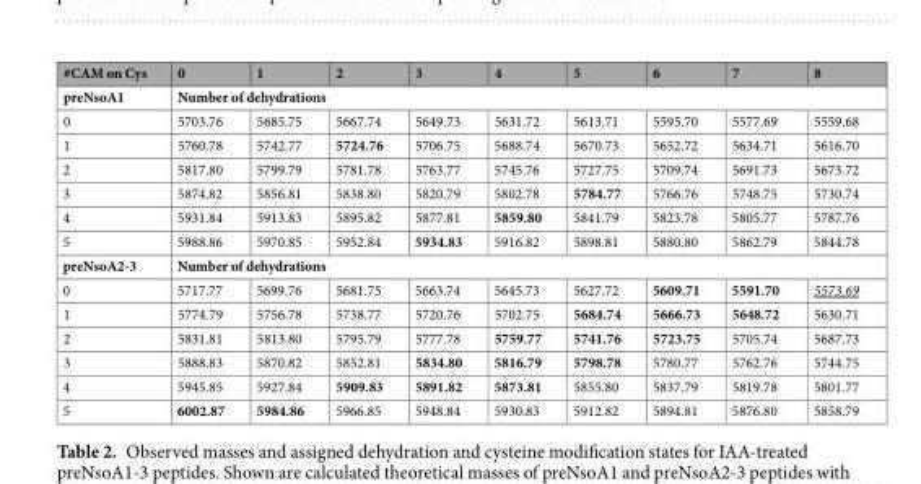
<table><thead><tr><td>#CAM on Cys</td><td>0</td><td>1</td><td>2</td><td>3</td><td>4</td><td>5</td><td>6</td><td>7</td><td>8</td></tr></thead><tbody><tr><td>preNsoA1</td><td colspan="9">Number of dehydrations</td></tr><tr><td>0</td><td>5703.76</td><td>5685.75</td><td>5667.74</td><td>5649.73</td><td>5631.72</td><td>5613.71</td><td>5595.70</td><td>5577.69</td><td>5559.68</td></tr><tr><td>1</td><td>5760.78</td><td>5742.77</td><td>5724.76</td><td>5706.75</td><td>5688.74</td><td>5670.73</td><td>5652.72</td><td>5634.71</td><td>5616.70</td></tr><tr><td>2</td><td>5817.80</td><td>5799.79</td><td>5781.78</td><td>5763.77</td><td>5745.76</td><td>5727.75</td><td>5709.74</td><td>5691.73</td><td>5673.72</td></tr><tr><td>3</td><td>5874.82</td><td>5856.81</td><td>5838.80</td><td>5820.79</td><td>5802.78</td><td>5784.77</td><td>5766.76</td><td>5748.75</td><td>5730.74</td></tr><tr><td>4</td><td>5931.84</td><td>5913.83</td><td>5895.82</td><td>5877.81</td><td>5859.80</td><td>5841.79</td><td>5823.78</td><td>5805.77</td><td>5787.76</td></tr><tr><td>5</td><td>5988.86</td><td>5970.85</td><td>5952.84</td><td>5934.83</td><td>5916.82</td><td>5898.81</td><td>5880.80</td><td>5862.79</td><td>5844.78</td></tr><tr><td>preNsoA2-3</td><td colspan="9">Number of dehydrations</td></tr><tr><td>0</td><td>5717.77</td><td>5699.76</td><td>5681.75</td><td>5663.74</td><td>5645.73</td><td>5627.72</td><td>5609.71</td><td>5591.70</td><td>5573.69</td></tr><tr><td>1</td><td>5774.79</td><td>5756.78</td><td>5738.77</td><td>5720.76</td><td>5702.75</td><td>5684.74</td><td>5666.73</td><td>5648.72</td><td>5630.71</td></tr><tr><td>2</td><td>5831.81</td><td>5813.80</td><td>5795.79</td><td>5777.78</td><td>5759.77</td><td>5741.76</td><td>5723.75</td><td>5705.74</td><td>5687.73</td></tr><tr><td>3</td><td>5888.83</td><td>5870.82</td><td>5852.81</td><td>5834.80</td><td>5816.79</td><td>5798.78</td><td>5780.77</td><td>5762.76</td><td>5744.75</td></tr><tr><td>4</td><td>5945.85</td><td>5927.84</td><td>5909.83</td><td>5891.82</td><td>5873.81</td><td>5855.80</td><td>5837.79</td><td>5819.78</td><td>5801.77</td></tr><tr><td>5</td><td>6002.87</td><td>5984.86</td><td>5966.85</td><td>5948.84</td><td>5930.83</td><td>5912.82</td><td>5894.81</td><td>5876.80</td><td>5858.79</td></tr></tbody></table>